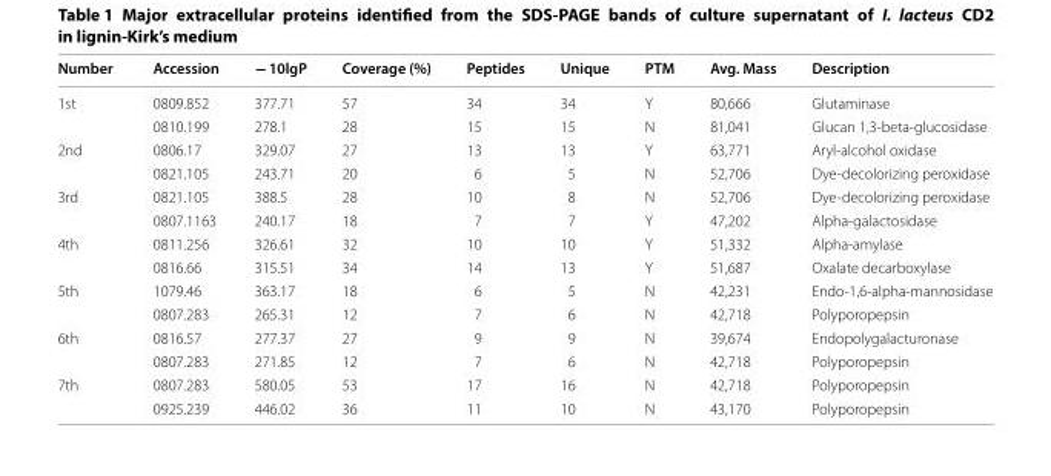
<table><thead><tr><td>Number</td><td>Accession</td><td>− 10lgP</td><td>Coverage (%)</td><td>Peptides</td><td>Unique</td><td>PTM</td><td>Avg. Mass</td><td>Description</td></tr></thead><tbody><tr><td rowspan="2">1st</td><td>0809.852</td><td>377.71</td><td>57</td><td>34</td><td>34</td><td>Y</td><td>80,666</td><td>Glutaminase</td></tr><tr><td>0810.199</td><td>278.1</td><td>28</td><td>15</td><td>15</td><td>N</td><td>81,041</td><td>Glucan 1,3-beta-glucosidase</td></tr><tr><td rowspan="2">2nd</td><td>0806.17</td><td>329.07</td><td>27</td><td>13</td><td>13</td><td>Y</td><td>63,771</td><td>Aryl-alcohol oxidase</td></tr><tr><td>0821.105</td><td>243.71</td><td>20</td><td>6</td><td>5</td><td>N</td><td>52,706</td><td>Dye-decolorizing peroxidase</td></tr><tr><td rowspan="2">3rd</td><td>0821.105</td><td>388.5</td><td>28</td><td>10</td><td>8</td><td>N</td><td>52,706</td><td>Dye-decolorizing peroxidase</td></tr><tr><td>0807.1163</td><td>240.17</td><td>18</td><td>7</td><td>7</td><td>Y</td><td>47,202</td><td>Alpha-galactosidase</td></tr><tr><td rowspan="2">4th</td><td>0811.256</td><td>326.61</td><td>32</td><td>10</td><td>10</td><td>Y</td><td>51,332</td><td>Alpha-amylase</td></tr><tr><td>0816.66</td><td>315.51</td><td>34</td><td>14</td><td>13</td><td>Y</td><td>51,687</td><td>Oxalate decarboxylase</td></tr><tr><td rowspan="2">5th</td><td>1079.46</td><td>363.17</td><td>18</td><td>6</td><td>5</td><td>N</td><td>42,231</td><td>Endo-1,6-alpha-mannosidase</td></tr><tr><td>0807.283</td><td>265.31</td><td>12</td><td>7</td><td>6</td><td>N</td><td>42,718</td><td>Polyporopepsin</td></tr><tr><td rowspan="2">6th</td><td>0816.57</td><td>277.37</td><td>27</td><td>9</td><td>9</td><td>N</td><td>39,674</td><td>Endopolygalacturonase</td></tr><tr><td>0807.283</td><td>271.85</td><td>12</td><td>7</td><td>6</td><td>N</td><td>42,718</td><td>Polyporopepsin</td></tr><tr><td rowspan="2">7th</td><td>0807.283</td><td>580.05</td><td>53</td><td>17</td><td>16</td><td>N</td><td>42,718</td><td>Polyporopepsin</td></tr><tr><td>0925.239</td><td>446.02</td><td>36</td><td>11</td><td>10</td><td>N</td><td>43,170</td><td>Polyporopepsin</td></tr></tbody></table>